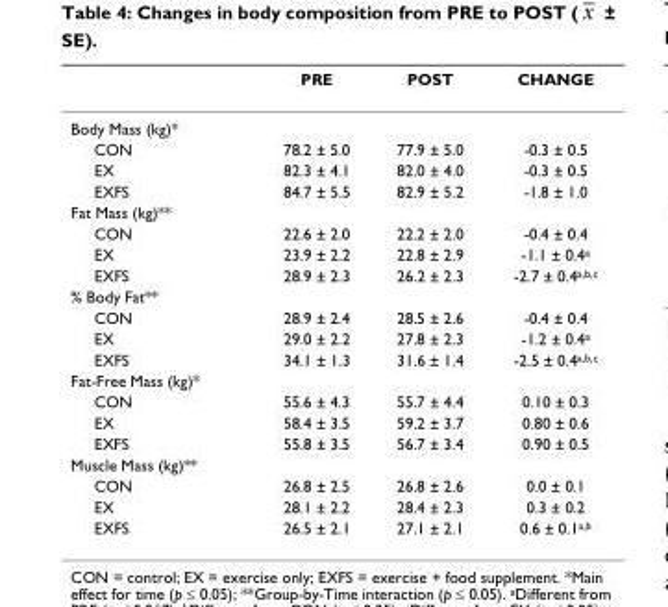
<table><thead><tr><td></td><td>PRE</td><td>POST</td><td>CHANGE</td></tr></thead><tbody><tr><td colspan="4">Body Mass (kg)*</td></tr><tr><td>CON</td><td>78.2 ± 5.0</td><td>77.9 ± 5.0</td><td>-0.3 ± 0.5</td></tr><tr><td>EX</td><td>82.3 ± 4.1</td><td>82.0 ± 4.0</td><td>-0.3 ± 0.5</td></tr><tr><td>EXFS</td><td>84.7 ± 5.5</td><td>82.9 ± 5.2</td><td>-1.8 ± 1.0</td></tr><tr><td colspan="4">Fat Mass (kg)**</td></tr><tr><td>CON</td><td>22.6 ± 2.0</td><td>22.2 ± 2.0</td><td>-0.4 ± 0.4</td></tr><tr><td>EX</td><td>23.9 ± 2.2</td><td>22.8 ± 2.9</td><td>-1.1 ± 0.4<sup>a</sup></td></tr><tr><td>EXFS</td><td>28.9 ± 2.3</td><td>26.2 ± 2.3</td><td>-2.7 ± 0.4<sup>a,b,c</sup></td></tr><tr><td colspan="4">% Body Fat**</td></tr><tr><td>CON</td><td>28.9 ± 2.4</td><td>28.5 ± 2.6</td><td>-0.4 ± 0.4</td></tr><tr><td>EX</td><td>29.0 ± 2.2</td><td>27.8 ± 2.3</td><td>-1.2 ± 0.4<sup>a</sup></td></tr><tr><td>EXFS</td><td>34.1 ± 1.3</td><td>31.6 ± 1.4</td><td>-2.5 ± 0.4<sup>a,b,c</sup></td></tr><tr><td colspan="4">Fat-Free Mass (kg)*</td></tr><tr><td>CON</td><td>55.6 ± 4.3</td><td>55.7 ± 4.4</td><td>0.10 ± 0.3</td></tr><tr><td>EX</td><td>58.4 ± 3.5</td><td>59.2 ± 3.7</td><td>0.80 ± 0.6</td></tr><tr><td>EXFS</td><td>55.8 ± 3.5</td><td>56.7 ± 3.4</td><td>0.90 ± 0.5</td></tr><tr><td colspan="4">Muscle Mass (kg)**</td></tr><tr><td>CON</td><td>26.8 ± 2.5</td><td>26.8 ± 2.6</td><td>0.0 ± 0.1</td></tr><tr><td>EX</td><td>28.1 ± 2.2</td><td>28.4 ± 2.3</td><td>0.3 ± 0.2</td></tr><tr><td>EXFS</td><td>26.5 ± 2.1</td><td>27.1 ± 2.1</td><td>0.6 ± 0.1<sup>a,b</sup></td></tr></tbody></table>